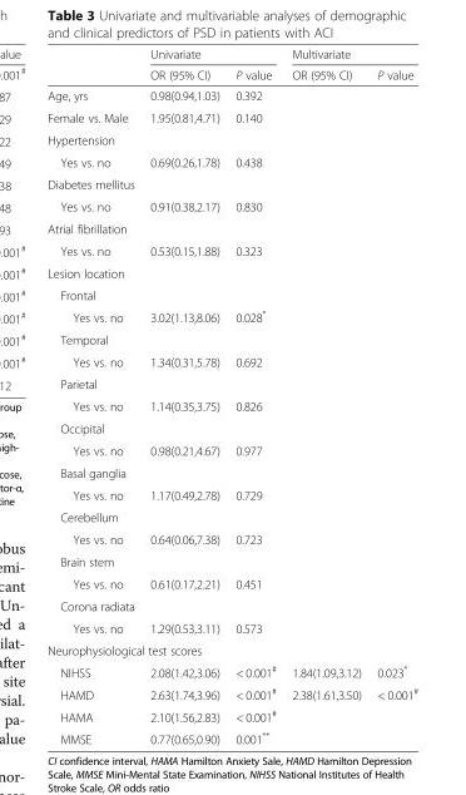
<table><thead><tr><td rowspan="2"></td><td colspan="2">Univariate</td><td colspan="2">Multivariate</td></tr><tr><td>OR (95% CI)</td><td>P value</td><td>OR (95% CI)</td><td>P value</td></tr></thead><tbody><tr><td>Age, yrs</td><td>0.98(0.94,1.03)</td><td>0.392</td><td></td><td></td></tr><tr><td>Female vs. Male</td><td>1.95(0.81,4.71)</td><td>0.140</td><td></td><td></td></tr><tr><td colspan="5">Hypertension</td></tr><tr><td>Yes vs. no</td><td>0.69(0.26,1.78)</td><td>0.438</td><td></td><td></td></tr><tr><td colspan="5">Diabetes mellitus</td></tr><tr><td>Yes vs. no</td><td>0.91(0.38,2.17)</td><td>0.830</td><td></td><td></td></tr><tr><td colspan="5">Atrial fibrillation</td></tr><tr><td>Yes vs. no</td><td>0.53(0.15,1.88)</td><td>0.323</td><td></td><td></td></tr><tr><td colspan="5">Lesion location</td></tr><tr><td colspan="5">Frontal</td></tr><tr><td>Yes vs. no</td><td>3.02(1.13,8.06)</td><td>0.028*</td><td></td><td></td></tr><tr><td colspan="5">Temporal</td></tr><tr><td>Yes vs. no</td><td>1.34(0.31,5.78)</td><td>0.692</td><td></td><td></td></tr><tr><td colspan="5">Parietal</td></tr><tr><td>Yes vs. no</td><td>1.14(0.35,3.75)</td><td>0.826</td><td></td><td></td></tr><tr><td colspan="5">Occipital</td></tr><tr><td>Yes vs. no</td><td>0.98(0.21,4.67)</td><td>0.977</td><td></td><td></td></tr><tr><td colspan="5">Basal ganglia</td></tr><tr><td>Yes vs. no</td><td>1.17(0.49,2.78)</td><td>0.729</td><td></td><td></td></tr><tr><td colspan="5">Cerebellum</td></tr><tr><td>Yes vs. no</td><td>0.64(0.06,7.38)</td><td>0.723</td><td></td><td></td></tr><tr><td colspan="5">Brain stem</td></tr><tr><td>Yes vs. no</td><td>0.61(0.17,2.21)</td><td>0.451</td><td></td><td></td></tr><tr><td colspan="5">Corona radiata</td></tr><tr><td>Yes vs. no</td><td>1.29(0.53,3.11)</td><td>0.573</td><td></td><td></td></tr><tr><td colspan="5">Neurophysiological test scores</td></tr><tr><td>NIHSS</td><td>2.08(1.42,3.06)</td><td>&lt; 0.001<sup>#</sup></td><td>1.84(1.09,3.12)</td><td>0.023*</td></tr><tr><td>HAMD</td><td>2.63(1.74,3.96)</td><td>&lt; 0.001<sup>#</sup></td><td>2.38(1.61,3.50)</td><td>&lt; 0.001<sup>#</sup></td></tr><tr><td>HAMA</td><td>2.10(1.56,2.83)</td><td>&lt; 0.001<sup>#</sup></td><td></td><td></td></tr><tr><td>MMSE</td><td>0.77(0.65,0.90)</td><td>0.001**</td><td></td><td></td></tr></tbody></table>